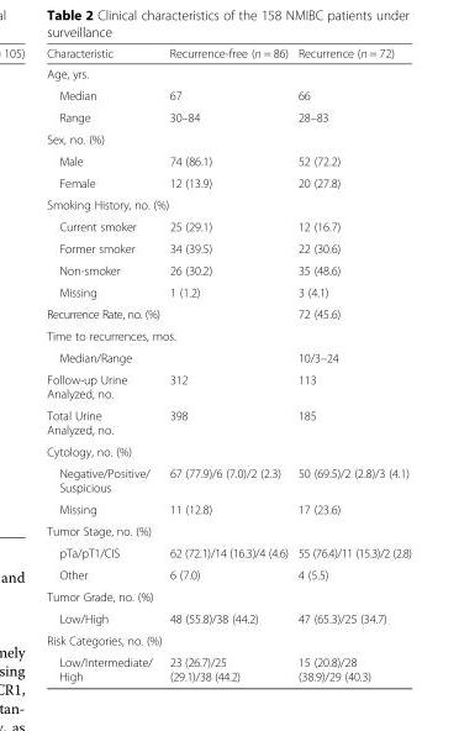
<table><thead><tr><td>Characteristic</td><td>Recurrence-free (n = 86)</td><td>Recurrence (n = 72)</td></tr></thead><tbody><tr><td colspan="3">Age, yrs.</td></tr><tr><td>Median</td><td>67</td><td>66</td></tr><tr><td>Range</td><td>30–84</td><td>28–83</td></tr><tr><td colspan="3">Sex, no. (%)</td></tr><tr><td>Male</td><td>74 (86.1)</td><td>52 (72.2)</td></tr><tr><td>Female</td><td>12 (13.9)</td><td>20 (27.8)</td></tr><tr><td colspan="3">Smoking History, no. (%)</td></tr><tr><td>Current smoker</td><td>25 (29.1)</td><td>12 (16.7)</td></tr><tr><td>Former smoker</td><td>34 (39.5)</td><td>22 (30.6)</td></tr><tr><td>Non-smoker</td><td>26 (30.2)</td><td>35 (48.6)</td></tr><tr><td>Missing</td><td>1 (1.2)</td><td>3 (4.1)</td></tr><tr><td>Recurrence Rate, no. (%)</td><td></td><td>72 (45.6)</td></tr><tr><td colspan="3">Time to recurrences, mos.</td></tr><tr><td>Median/Range</td><td></td><td>10/3–24</td></tr><tr><td>Follow-up Urine Analyzed, no.</td><td>312</td><td>113</td></tr><tr><td>Total Urine Analyzed, no.</td><td>398</td><td>185</td></tr><tr><td colspan="3">Cytology, no. (%)</td></tr><tr><td>Negative/Positive/ Suspicious</td><td>67 (77.9)/6 (7.0)/2 (2.3)</td><td>50 (69.5)/2 (2.8)/3 (4.1)</td></tr><tr><td>Missing</td><td>11 (12.8)</td><td>17 (23.6)</td></tr><tr><td colspan="3">Tumor Stage, no. (%)</td></tr><tr><td>pTa/pT1/CIS</td><td>62 (72.1)/14 (16.3)/4 (4.6)</td><td>55 (76.4)/11 (15.3)/2 (2.8)</td></tr><tr><td>Other</td><td>6 (7.0)</td><td>4 (5.5)</td></tr><tr><td colspan="3">Tumor Grade, no. (%)</td></tr><tr><td>Low/High</td><td>48 (55.8)/38 (44.2)</td><td>47 (65.3)/25 (34.7)</td></tr><tr><td colspan="3">Risk Categories, no. (%)</td></tr><tr><td>Low/Intermediate/ High</td><td>23 (26.7)/25 (29.1)/38 (44.2)</td><td>15 (20.8)/28 (38.9)/29 (40.3)</td></tr></tbody></table>